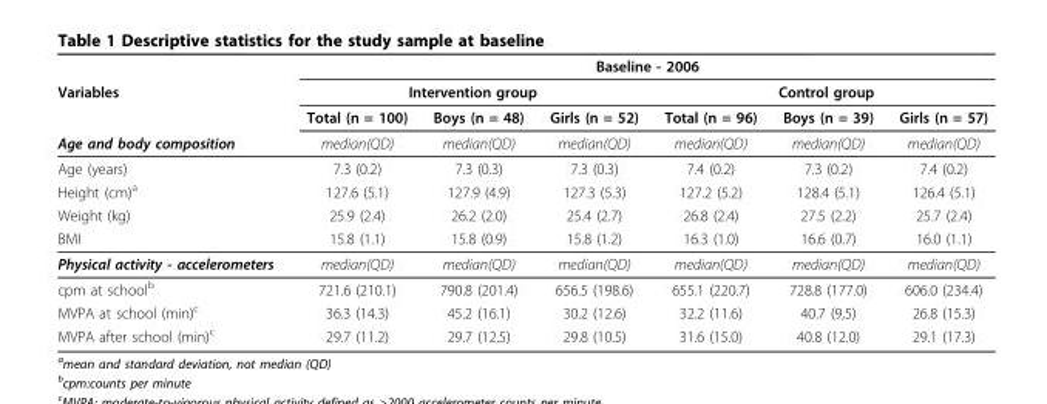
<table><thead><tr><td rowspan="4">Variables Age and body composition</td><td colspan="6">Baseline - 2006</td></tr><tr><td colspan="3">Intervention group</td><td colspan="3">Control group</td></tr><tr><td rowspan="2">Total (n = 100) median(QD)</td><td rowspan="2">Boys (n = 48) median(QD)</td><td rowspan="2">Girls (n = 52) median(QD)</td><td rowspan="2">Total (n = 96) median(QD)</td><td rowspan="2">Boys (n = 39) median(QD)</td><td rowspan="2">Girls (n = 57) median(QD)</td></tr><tr></tr></thead><tbody><tr><td>Age (years)</td><td>7.3 (0.2)</td><td>7.3 (0.3)</td><td>7.3 (0.3)</td><td>7.4 (0.2)</td><td>7.3 (0.2)</td><td>7.4 (0.2)</td></tr><tr><td>Height (cm)<sup>a</sup></td><td>127.6 (5.1)</td><td>127.9 (4.9)</td><td>127.3 (5.3)</td><td>127.2 (5.2)</td><td>128.4 (5.1)</td><td>126.4 (5.1)</td></tr><tr><td>Weight (kg)</td><td>25.9 (2.4)</td><td>26.2 (2.0)</td><td>25.4 (2.7)</td><td>26.8 (2.4)</td><td>27.5 (2.2)</td><td>25.7 (2.4)</td></tr><tr><td>BMI</td><td>15.8 (1.1)</td><td>15.8 (0.9)</td><td>15.8 (1.2)</td><td>16.3 (1.0)</td><td>16.6 (0.7)</td><td>16.0 (1.1)</td></tr><tr><td>Physical activity - accelerometers</td><td>median(QD)</td><td>median(QD)</td><td>median(QD)</td><td>median(QD)</td><td>median(QD)</td><td>median(QD)</td></tr><tr><td>cpm at schoolb</td><td>721.6 (210.1)</td><td>790.8 (201.4)</td><td>656.5 (198.6)</td><td>655.1 (220.7)</td><td>728.8 (177.0)</td><td>606.0 (234.4)</td></tr><tr><td>MVPA at school (min)c</td><td>36.3 (14.3)</td><td>45.2 (16.1)</td><td>30.2 (12.6)</td><td>32.2 (11.6)</td><td>40.7 (9,5)</td><td>26.8 (15.3)</td></tr><tr><td>MVPA after school (min)c</td><td>29.7 (11.2)</td><td>29.7 (12.5)</td><td>29.8 (10.5)</td><td>31.6 (15.0)</td><td>40.8 (12.0)</td><td>29.1 (17.3)</td></tr></tbody></table>